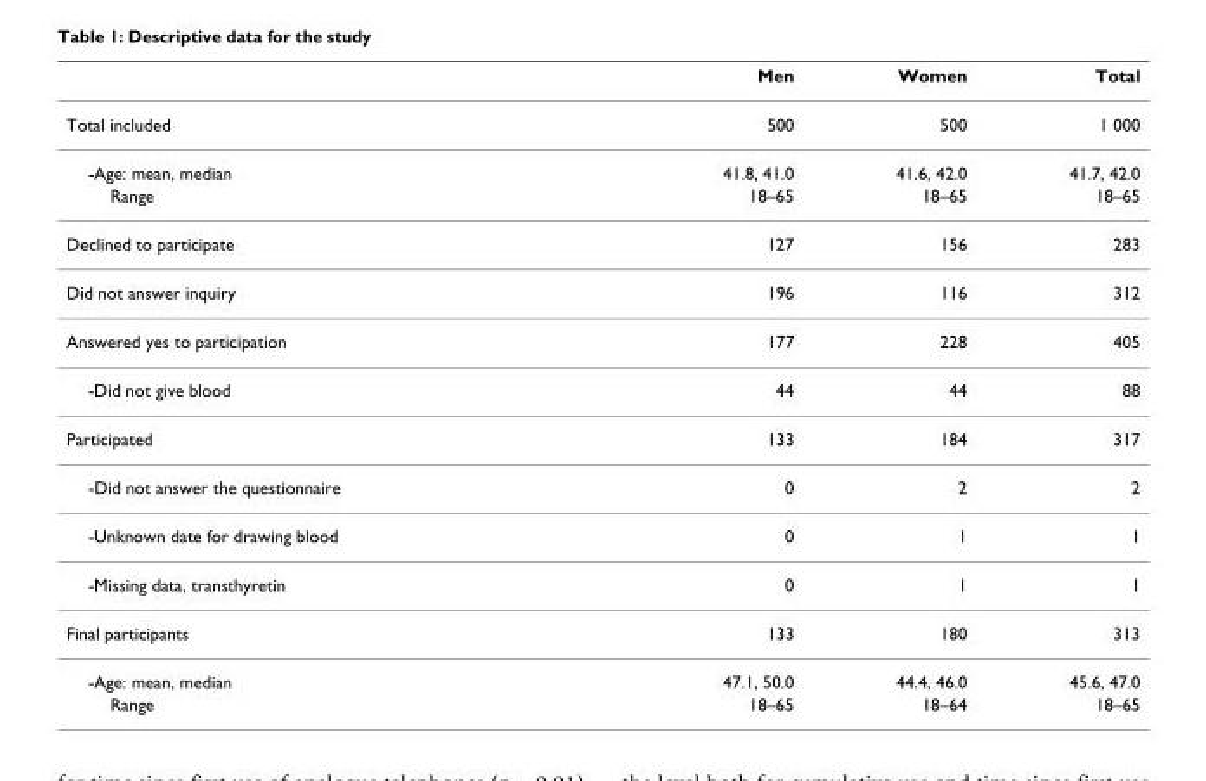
<table><thead><tr><td></td><td>Men</td><td>Women</td><td>Total</td></tr></thead><tbody><tr><td>Total included</td><td>500</td><td>500</td><td>1 000</td></tr><tr><td>-Age: mean, median</td><td>41.8, 41.0</td><td>41.6, 42.0</td><td>41.7, 42.0</td></tr><tr><td>Range</td><td>18–65</td><td>18–65</td><td>18–65</td></tr><tr><td>Declined to participate</td><td>127</td><td>156</td><td>283</td></tr><tr><td>Did not answer inquiry</td><td>196</td><td>116</td><td>312</td></tr><tr><td>Answered yes to participation</td><td>177</td><td>228</td><td>405</td></tr><tr><td>-Did not give blood</td><td>44</td><td>44</td><td>88</td></tr><tr><td>Participated</td><td>133</td><td>184</td><td>317</td></tr><tr><td>-Did not answer the questionnaire</td><td>0</td><td>2</td><td>2</td></tr><tr><td>-Unknown date for drawing blood</td><td>0</td><td>1</td><td>1</td></tr><tr><td>-Missing data, transthyretin</td><td>0</td><td>1</td><td>1</td></tr><tr><td>Final participants</td><td>133</td><td>180</td><td>313</td></tr><tr><td>-Age: mean, median</td><td>47.1, 50.0</td><td>44.4, 46.0</td><td>45.6, 47.0</td></tr><tr><td>Range</td><td>18–65</td><td>18–64</td><td>18–65</td></tr></tbody></table>